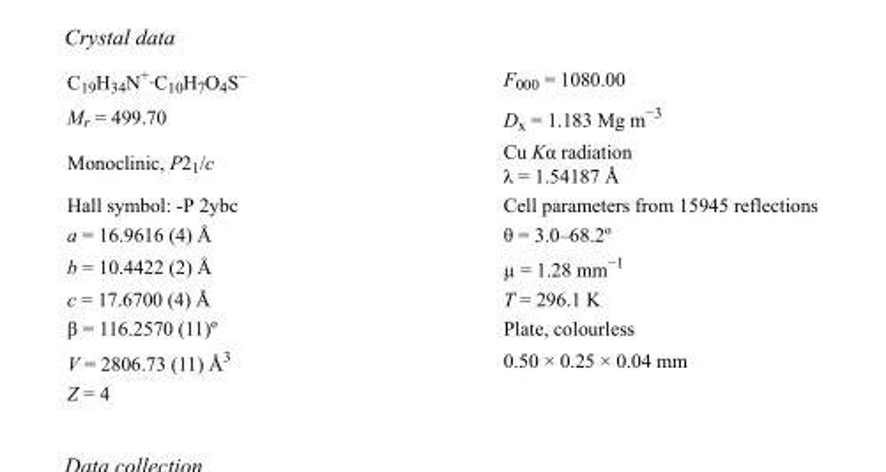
<table><tbody><tr><td>C<sub>19</sub>H<sub>34</sub>N<sup>+</sup>·C<sub>10</sub>H<sub>7</sub>O<sub>4</sub>S<sup>–</sup></td><td>F000 = 1080.00</td></tr><tr><td>M<sub>r</sub> = 499.70</td><td>D<sub>x</sub> = 1.183 Mg m<sup>−3</sup></td></tr><tr><td>Monoclinic, P2<sub>1</sub>/c</td><td>Cu Kα radiation λ = 1.54187 Å</td></tr><tr><td>Hall symbol: -P 2ybc</td><td>Cell parameters from 15945 reflections</td></tr><tr><td>a = 16.9616 (4) Å</td><td>θ = 3.0–68.2º</td></tr><tr><td>b = 10.4422 (2) Å</td><td>µ = 1.28 mm<sup>−1</sup></td></tr><tr><td>c = 17.6700 (4) Å</td><td>T = 296.1 K</td></tr><tr><td>β = 116.2570 (11)º</td><td>Plate, colourless</td></tr><tr><td>V = 2806.73 (11) Å<sup>3</sup></td><td>0.50 × 0.25 × 0.04 mm</td></tr><tr><td>Z = 4</td><td></td></tr></tbody></table>